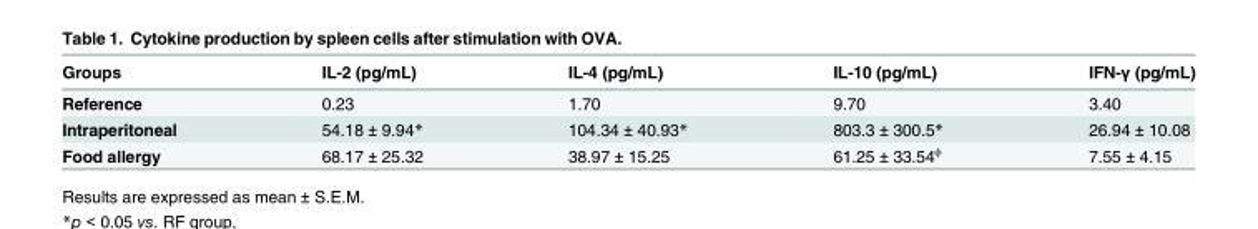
<table><thead><tr><td>Groups</td><td>IL-2 (pg/mL)</td><td>IL-4 (pg/mL)</td><td>IL-10 (pg/mL)</td><td>IFN-γ (pg/mL)</td></tr></thead><tbody><tr><td>Reference</td><td>0.23</td><td>1.70</td><td>9.70</td><td>3.40</td></tr><tr><td>Intraperitoneal</td><td>54.18 ± 9.94*</td><td>104.34 ± 40.93*</td><td>803.3 ± 300.5*</td><td>26.94 ± 10.08</td></tr><tr><td>Food allergy</td><td>68.17 ± 25.32</td><td>38.97 ± 15.25</td><td>61.25 ± 33.54<sup>ϕ</sup></td><td>7.55 ± 4.15</td></tr></tbody></table>